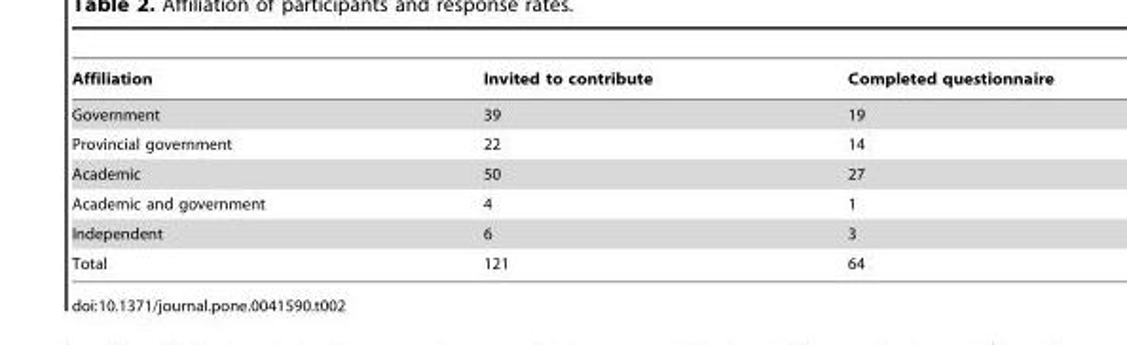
<table><thead><tr><td>Affiliation</td><td>Invited to contribute</td><td>Completed questionnaire</td></tr></thead><tbody><tr><td>Government</td><td>39</td><td>19</td></tr><tr><td>Provincial government</td><td>22</td><td>14</td></tr><tr><td>Academic</td><td>50</td><td>27</td></tr><tr><td>Academic and government</td><td>4</td><td>1</td></tr><tr><td>Independent</td><td>6</td><td>3</td></tr><tr><td>Total</td><td>121</td><td>64</td></tr></tbody></table>